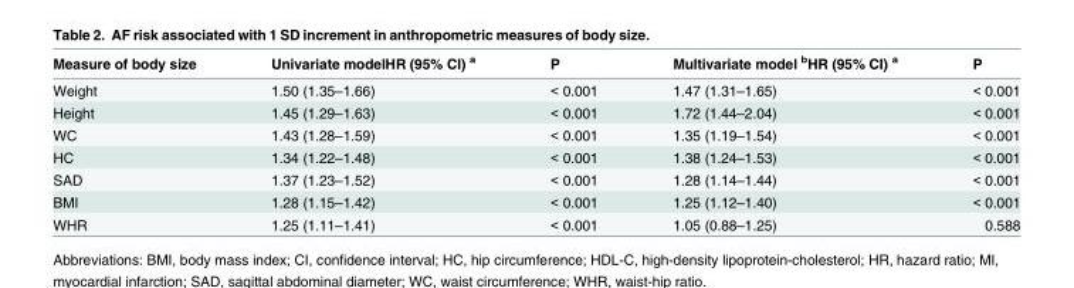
<table><thead><tr><td>Measure of body size</td><td>Univariate modelHR (95% CI) <sup>a</sup></td><td>P</td><td>Multivariate model <sup>b</sup>HR (95% CI) <sup>a</sup></td><td>P</td></tr></thead><tbody><tr><td>Weight</td><td>1.50 (1.35–1.66)</td><td>&lt; 0.001</td><td>1.47 (1.31–1.65)</td><td>&lt; 0.001</td></tr><tr><td>Height</td><td>1.45 (1.29–1.63)</td><td>&lt; 0.001</td><td>1.72 (1.44–2.04)</td><td>&lt; 0.001</td></tr><tr><td>WC</td><td>1.43 (1.28–1.59)</td><td>&lt; 0.001</td><td>1.35 (1.19–1.54)</td><td>&lt; 0.001</td></tr><tr><td>HC</td><td>1.34 (1.22–1.48)</td><td>&lt; 0.001</td><td>1.38 (1.24–1.53)</td><td>&lt; 0.001</td></tr><tr><td>SAD</td><td>1.37 (1.23–1.52)</td><td>&lt; 0.001</td><td>1.28 (1.14–1.44)</td><td>&lt; 0.001</td></tr><tr><td>BMI</td><td>1.28 (1.15–1.42)</td><td>&lt; 0.001</td><td>1.25 (1.12–1.40)</td><td>&lt; 0.001</td></tr><tr><td>WHR</td><td>1.25 (1.11–1.41)</td><td>&lt; 0.001</td><td>1.05 (0.88–1.25)</td><td>0.588</td></tr></tbody></table>